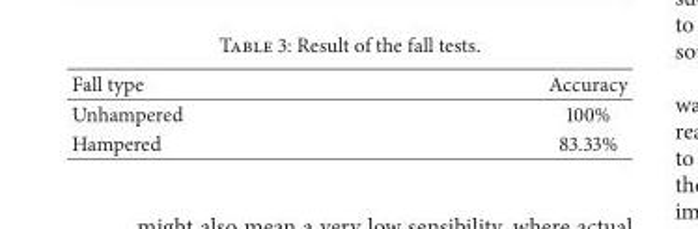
<table><thead><tr><td>Fall type</td><td>Accuracy</td></tr></thead><tbody><tr><td>Unhampered</td><td>100%</td></tr><tr><td>Hampered</td><td>83.33%</td></tr></tbody></table>